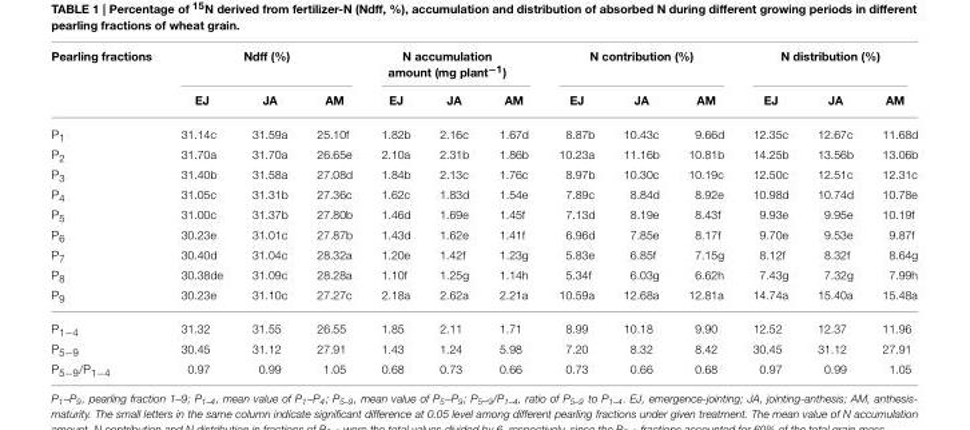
<table><thead><tr><td rowspan="2">Pearling fractions</td><td colspan="3">Ndff (%)</td><td colspan="3">N accumulation amount (mg plant<sup>−1</sup>)</td><td colspan="3">N contribution (%)</td><td colspan="3">N distribution (%)</td></tr><tr><td>EJ</td><td>JA</td><td>AM</td><td>EJ</td><td>JA</td><td>AM</td><td>EJ</td><td>JA</td><td>AM</td><td>EJ</td><td>JA</td><td>AM</td></tr></thead><tbody><tr><td>P<sub>1</sub></td><td>31.14c</td><td>31.59a</td><td>25.10f</td><td>1.82b</td><td>2.16c</td><td>1.67d</td><td>8.87b</td><td>10.43c</td><td>9.66d</td><td>12.35c</td><td>12.67c</td><td>11.68d</td></tr><tr><td>P<sub>2</sub></td><td>31.70a</td><td>31.70a</td><td>26.65e</td><td>2.10a</td><td>2.31b</td><td>1.86b</td><td>10.23a</td><td>11.16b</td><td>10.81b</td><td>14.25b</td><td>13.56b</td><td>13.06b</td></tr><tr><td>P<sub>3</sub></td><td>31.40b</td><td>31.58a</td><td>27.08d</td><td>1.84b</td><td>2.13c</td><td>1.76c</td><td>8.97b</td><td>10.30c</td><td>10.19c</td><td>12.50c</td><td>12.51c</td><td>12.31c</td></tr><tr><td>P<sub>4</sub></td><td>31.05c</td><td>31.31b</td><td>27.36c</td><td>1.62c</td><td>1.83d</td><td>1.54e</td><td>7.89c</td><td>8.84d</td><td>8.92e</td><td>10.98d</td><td>10.74d</td><td>10.78e</td></tr><tr><td>P<sub>5</sub></td><td>31.00c</td><td>31.37b</td><td>27.80b</td><td>1.46d</td><td>1.69e</td><td>1.45f</td><td>7.13d</td><td>8.19e</td><td>8.43f</td><td>9.93e</td><td>9.95e</td><td>10.19f</td></tr><tr><td>P<sub>6</sub></td><td>30.23e</td><td>31.01c</td><td>27.87b</td><td>1.43d</td><td>1.62e</td><td>1.41f</td><td>6.96d</td><td>7.85e</td><td>8.17f</td><td>9.70e</td><td>9.53e</td><td>9.87f</td></tr><tr><td>P<sub>7</sub></td><td>30.40d</td><td>31.04c</td><td>28.32a</td><td>1.20e</td><td>1.42f</td><td>1.23g</td><td>5.83e</td><td>6.85f</td><td>7.15g</td><td>8.12f</td><td>8.32f</td><td>8.64g</td></tr><tr><td>P<sub>8</sub></td><td>30.38de</td><td>31.09c</td><td>28.28a</td><td>1.10f</td><td>1.25g</td><td>1.14h</td><td>5.34f</td><td>6.03g</td><td>6.62h</td><td>7.43g</td><td>7.32g</td><td>7.99h</td></tr><tr><td>P<sub>9</sub></td><td>30.23e</td><td>31.10c</td><td>27.27c</td><td>2.18a</td><td>2.62a</td><td>2.21a</td><td>10.59a</td><td>12.68a</td><td>12.81a</td><td>14.74a</td><td>15.40a</td><td>15.48a</td></tr><tr><td>P<sub>1−4</sub></td><td>31.32</td><td>31.55</td><td>26.55</td><td>1.85</td><td>2.11</td><td>1.71</td><td>8.99</td><td>10.18</td><td>9.90</td><td>12.52</td><td>12.37</td><td>11.96</td></tr><tr><td>P<sub>5−9</sub></td><td>30.45</td><td>31.12</td><td>27.91</td><td>1.43</td><td>1.24</td><td>5.98</td><td>7.20</td><td>8.32</td><td>8.42</td><td>30.45</td><td>31.12</td><td>27.91</td></tr><tr><td>P<sub>5−9</sub>/P<sub>1−4</sub></td><td>0.97</td><td>0.99</td><td>1.05</td><td>0.68</td><td>0.73</td><td>0.66</td><td>0.73</td><td>0.66</td><td>0.68</td><td>0.97</td><td>0.99</td><td>1.05</td></tr></tbody></table>